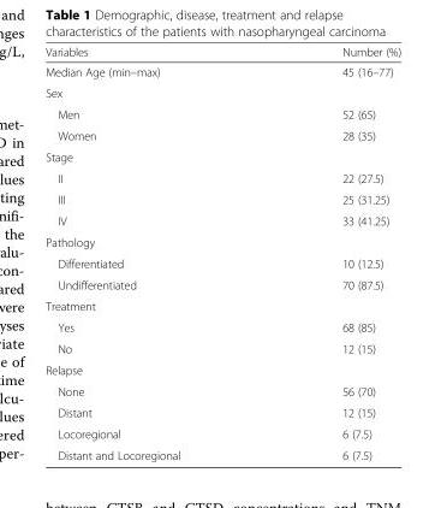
<table><thead><tr><td>Variables</td><td>Number (%)</td></tr></thead><tbody><tr><td>Median Age (min–max)</td><td>45 (16–77)</td></tr><tr><td colspan="2">Sex</td></tr><tr><td>Men</td><td>52 (65)</td></tr><tr><td>Women</td><td>28 (35)</td></tr><tr><td colspan="2">Stage</td></tr><tr><td>II</td><td>22 (27.5)</td></tr><tr><td>III</td><td>25 (31.25)</td></tr><tr><td>IV</td><td>33 (41.25)</td></tr><tr><td colspan="2">Pathology</td></tr><tr><td>Differentiated</td><td>10 (12.5)</td></tr><tr><td>Undifferentiated</td><td>70 (87.5)</td></tr><tr><td colspan="2">Treatment</td></tr><tr><td>Yes</td><td>68 (85)</td></tr><tr><td>No</td><td>12 (15)</td></tr><tr><td colspan="2">Relapse</td></tr><tr><td>None</td><td>56 (70)</td></tr><tr><td>Distant</td><td>12 (15)</td></tr><tr><td>Locoregional</td><td>6 (7.5)</td></tr><tr><td>Distant and Locoregional</td><td>6 (7.5)</td></tr></tbody></table>